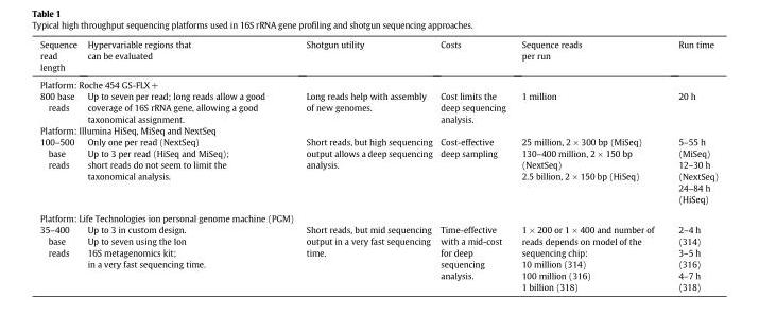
<table><thead><tr><td>Sequence read length</td><td>Hypervariable regions that can be evaluated</td><td>Shotgun utility</td><td>Costs</td><td>Sequence reads per run</td><td>Run time</td></tr></thead><tbody><tr><td colspan="6">Platform: Roche 454 GS-FLX+</td></tr><tr><td>800 base reads</td><td>Up to seven per read; long reads allow a good coverage of 16S rRNA gene, allowing a good taxonomical assignment.</td><td>Long reads help with assembly of new genomes.</td><td>Cost limits the deep sequencing analysis.</td><td>1 million</td><td>20 h</td></tr><tr><td colspan="6">Platform: Illumina HiSeq, MiSeq and NextSeq</td></tr><tr><td>100–500 base reads</td><td>Only one per read (NextSeq) Up to 3 per read (HiSeq and MiSeq); short reads do not seem to limit the taxonomical analysis.</td><td>Short reads, but high sequencing output allows a deep sequencing analysis.</td><td>Cost-effective deep sampling</td><td>25 million, 2 × 300 bp (MiSeq) 130–400 million, 2 × 150 bp (NextSeq) 2.5 billion, 2 × 150 bp (HiSeq)</td><td>5–55 h (MiSeq) 12–30 h (NextSeq) 24–84 h (HiSeq)</td></tr><tr><td colspan="6">Platform: Life Technologies ion personal genome machine (PGM)</td></tr><tr><td>35–400 base reads</td><td>Up to 3 in custom design. Up to seven using the Ion 16S metagenomics kit; in a very fast sequencing time.</td><td>Short reads, but mid sequencing output in a very fast sequencing time.</td><td>Time-effective with a mid-cost for deep sequencing analysis.</td><td>1 × 200 or 1 × 400 and number of reads depends on model of the sequencing chip: 10 million (314) 100 million (316) 1 billion (318)</td><td>2–4 h (314) 3–5 h (316) 4–7 h (318)</td></tr></tbody></table>